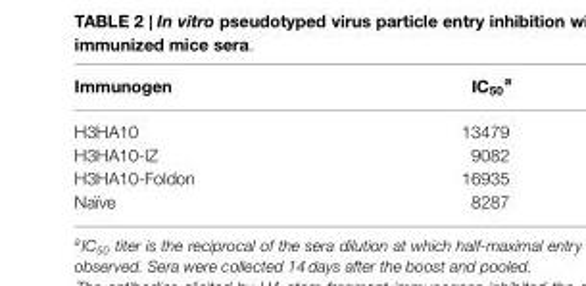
<table><thead><tr><td>Immunogen</td><td>IC<sub>50</sub> <sup>a</sup></td></tr></thead><tbody><tr><td>H3HA10</td><td>13479</td></tr><tr><td>H3HA10-IZ</td><td>9082</td></tr><tr><td>H3HA10-Foldon</td><td>16935</td></tr><tr><td>Naïve</td><td>8287</td></tr></tbody></table>